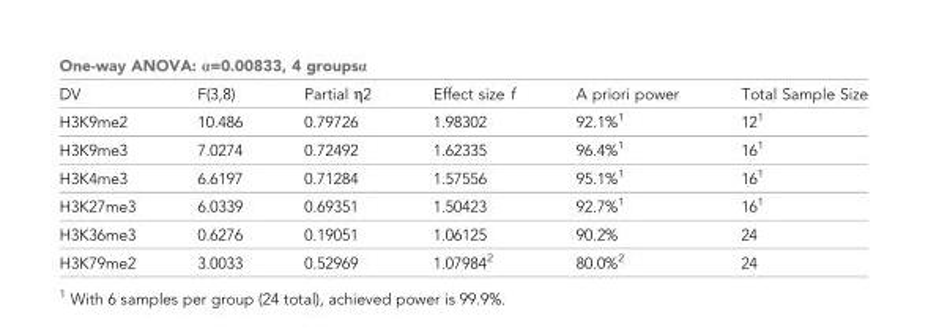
<table><thead><tr><td colspan="6">One-way ANOVA: α=0.00833, 4 groupsα</td></tr><tr><td>DV</td><td>F(3,8)</td><td>Partial η2</td><td>Effect size f</td><td>A priori power</td><td>Total Sample Size</td></tr></thead><tbody><tr><td>H3K9me2</td><td>10.486</td><td>0.79726</td><td>1.98302</td><td>92.1%<sup>1</sup></td><td>12<sup>1</sup></td></tr><tr><td>H3K9me3</td><td>7.0274</td><td>0.72492</td><td>1.62335</td><td>96.4%<sup>1</sup></td><td>16<sup>1</sup></td></tr><tr><td>H3K4me3</td><td>6.6197</td><td>0.71284</td><td>1.57556</td><td>95.1%<sup>1</sup></td><td>16<sup>1</sup></td></tr><tr><td>H3K27me3</td><td>6.0339</td><td>0.69351</td><td>1.50423</td><td>92.7%<sup>1</sup></td><td>16<sup>1</sup></td></tr><tr><td>H3K36me3</td><td>0.6276</td><td>0.19051</td><td>1.06125</td><td>90.2%</td><td>24</td></tr><tr><td>H3K79me2</td><td>3.0033</td><td>0.52969</td><td>1.07984<sup>2</sup></td><td>80.0%<sup>2</sup></td><td>24</td></tr></tbody></table>